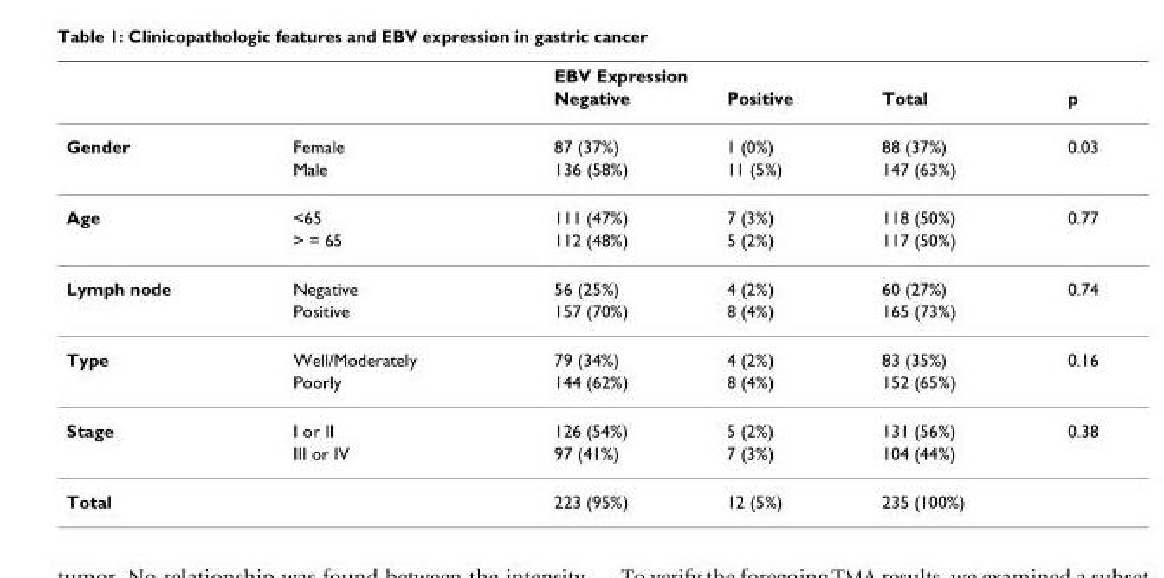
<table><thead><tr><td rowspan="2"></td><td rowspan="2"></td><td colspan="4">EBV Expression</td></tr><tr><td>Negative</td><td>Positive</td><td>Total</td><td>p</td></tr></thead><tbody><tr><td rowspan="2">Gender</td><td>Female</td><td>87 (37%)</td><td>1 (0%)</td><td>88 (37%)</td><td>0.03</td></tr><tr><td>Male</td><td>136 (58%)</td><td>11 (5%)</td><td>147 (63%)</td><td></td></tr><tr><td rowspan="2">Age</td><td>&lt;65</td><td>111 (47%)</td><td>7 (3%)</td><td>118 (50%)</td><td>0.77</td></tr><tr><td>&gt; = 65</td><td>112 (48%)</td><td>5 (2%)</td><td>117 (50%)</td><td></td></tr><tr><td rowspan="2">Lymph node</td><td>Negative</td><td>56 (25%)</td><td>4 (2%)</td><td>60 (27%)</td><td>0.74</td></tr><tr><td>Positive</td><td>157 (70%)</td><td>8 (4%)</td><td>165 (73%)</td><td></td></tr><tr><td rowspan="2">Type</td><td>Well/Moderately</td><td>79 (34%)</td><td>4 (2%)</td><td>83 (35%)</td><td>0.16</td></tr><tr><td>Poorly</td><td>144 (62%)</td><td>8 (4%)</td><td>152 (65%)</td><td></td></tr><tr><td rowspan="2">Stage</td><td>I or II</td><td>126 (54%)</td><td>5 (2%)</td><td>131 (56%)</td><td>0.38</td></tr><tr><td>III or IV</td><td>97 (41%)</td><td>7 (3%)</td><td>104 (44%)</td><td></td></tr><tr><td>Total</td><td></td><td>223 (95%)</td><td>12 (5%)</td><td>235 (100%)</td><td></td></tr></tbody></table>